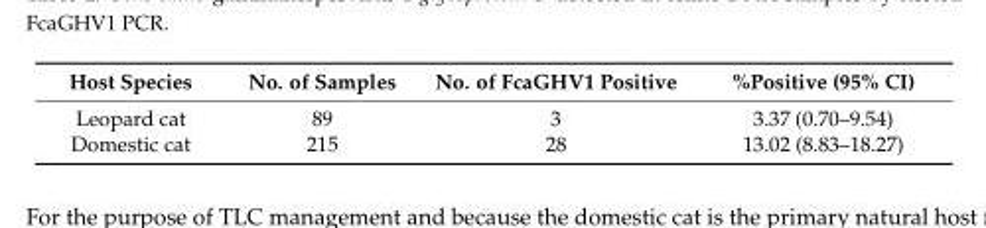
<table><thead><tr><td>Host Species</td><td>No. of Samples</td><td>No. of FcaGHV1 Positive</td><td>%Positive (95% CI)</td></tr></thead><tbody><tr><td>Leopard cat</td><td>89</td><td>3</td><td>3.37 (0.70–9.54)</td></tr><tr><td>Domestic cat</td><td>215</td><td>28</td><td>13.02 (8.83–18.27)</td></tr></tbody></table>